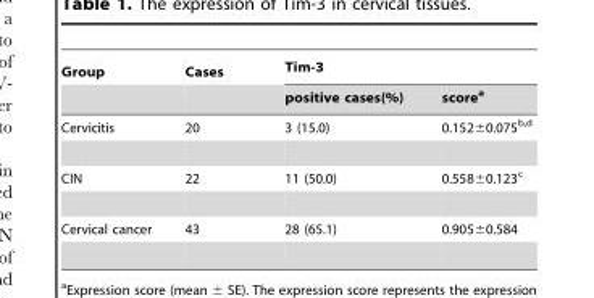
<table><thead><tr><td rowspan="2">Group</td><td rowspan="2">Cases</td><td colspan="2">Tim-3</td></tr><tr><td>positive cases(%)</td><td>scorea</td></tr></thead><tbody><tr><td>Cervicitis</td><td>20</td><td>3 (15.0)</td><td>0.152±0.075b,d</td></tr><tr><td>CIN</td><td>22</td><td>11 (50.0)</td><td>0.558±0.123c</td></tr><tr><td>Cervical cancer</td><td>43</td><td>28 (65.1)</td><td>0.905±0.584</td></tr></tbody></table>